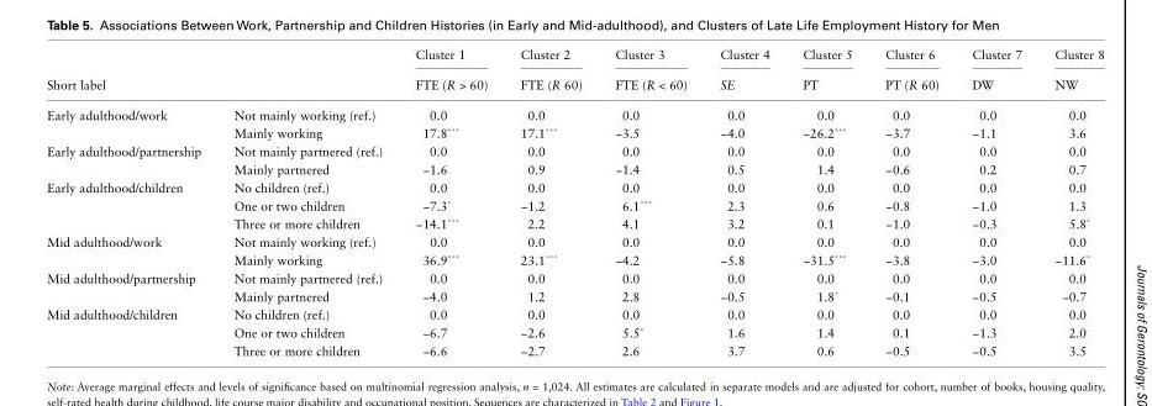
<table><thead><tr><td rowspan="2">Short label</td><td rowspan="2"></td><td rowspan="2">Cluster 1 FTE (R &gt; 60)</td><td rowspan="2">Cluster 2 FTE (R 60)</td><td rowspan="2">Cluster 3 FTE (R &lt; 60)</td><td rowspan="2">Cluster 4 SE</td><td rowspan="2">Cluster 5 PT</td><td rowspan="2">Cluster 6 PT (R 60)</td><td rowspan="2">Cluster 7 DW</td><td rowspan="2">Cluster 8 NW</td></tr><tr></tr></thead><tbody><tr><td rowspan="2">Early adulthood/work</td><td>Not mainly working (ref.)</td><td>0.0</td><td>0.0</td><td>0.0</td><td>0.0</td><td>0.0</td><td>0.0</td><td>0.0</td><td>0.0</td></tr><tr><td>Mainly working</td><td>17.8***</td><td>17.1***</td><td>−3.5</td><td>−4.0</td><td>−26.2***</td><td>−3.7</td><td>−1.1</td><td>3.6</td></tr><tr><td rowspan="2">Early adulthood/partnership</td><td>Not mainly partnered (ref.)</td><td>0.0</td><td>0.0</td><td>0.0</td><td>0.0</td><td>0.0</td><td>0.0</td><td>0.0</td><td>0.0</td></tr><tr><td>Mainly partnered</td><td>−1.6</td><td>0.9</td><td>−1.4</td><td>0.5</td><td>1.4</td><td>−0.6</td><td>0.2</td><td>0.7</td></tr><tr><td rowspan="3">Early adulthood/children</td><td>No children (ref.)</td><td>0.0</td><td>0.0</td><td>0.0</td><td>0.0</td><td>0.0</td><td>0.0</td><td>0.0</td><td>0.0</td></tr><tr><td>One or two children</td><td>−7.3*</td><td>−1.2</td><td>6.1***</td><td>2.3</td><td>0.6</td><td>−0.8</td><td>−1.0</td><td>1.3</td></tr><tr><td>Three or more children</td><td>−14.1***</td><td>2.2</td><td>4.1</td><td>3.2</td><td>0.1</td><td>−1.0</td><td>−0.3</td><td>5.8*</td></tr><tr><td rowspan="2">Mid adulthood/work</td><td>Not mainly working (ref.)</td><td>0.0</td><td>0.0</td><td>0.0</td><td>0.0</td><td>0.0</td><td>0.0</td><td>0.0</td><td>0.0</td></tr><tr><td>Mainly working</td><td>36.9***</td><td>23.1***</td><td>−4.2</td><td>−5.8</td><td>−31.5***</td><td>−3.8</td><td>−3.0</td><td>−11.6*</td></tr><tr><td rowspan="2">Mid adulthood/partnership</td><td>Not mainly partnered (ref.)</td><td>0.0</td><td>0.0</td><td>0.0</td><td>0.0</td><td>0.0</td><td>0.0</td><td>0.0</td><td>0.0</td></tr><tr><td>Mainly partnered</td><td>−4.0</td><td>1.2</td><td>2.8</td><td>−0.5</td><td>1.8*</td><td>−0.1</td><td>−0.5</td><td>−0.7</td></tr><tr><td rowspan="3">Mid adulthood/children</td><td>No children (ref.)</td><td>0.0</td><td>0.0</td><td>0.0</td><td>0.0</td><td>0.0</td><td>0.0</td><td>0.0</td><td>0.0</td></tr><tr><td>One or two children</td><td>−6.7</td><td>−2.6</td><td>5.5*</td><td>1.6</td><td>1.4</td><td>0.1</td><td>−1.3</td><td>2.0</td></tr><tr><td>Three or more children</td><td>−6.6</td><td>−2.7</td><td>2.6</td><td>3.7</td><td>0.6</td><td>−0.5</td><td>−0.5</td><td>3.5</td></tr></tbody></table>